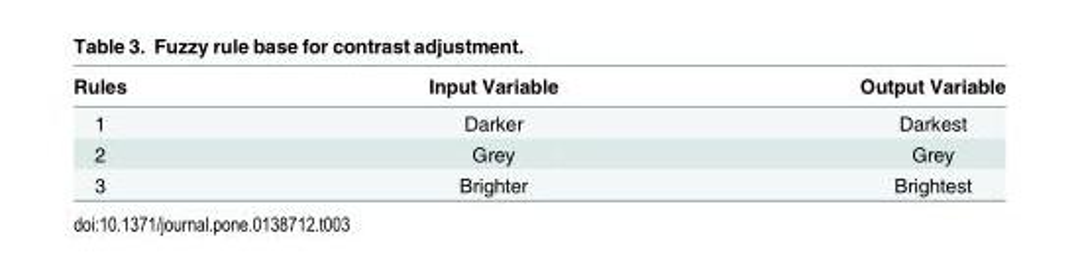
<table><thead><tr><td>Rules</td><td>Input Variable</td><td>Output Variable</td></tr></thead><tbody><tr><td>1</td><td>Darker</td><td>Darkest</td></tr><tr><td>2</td><td>Grey</td><td>Grey</td></tr><tr><td>3</td><td>Brighter</td><td>Brightest</td></tr></tbody></table>